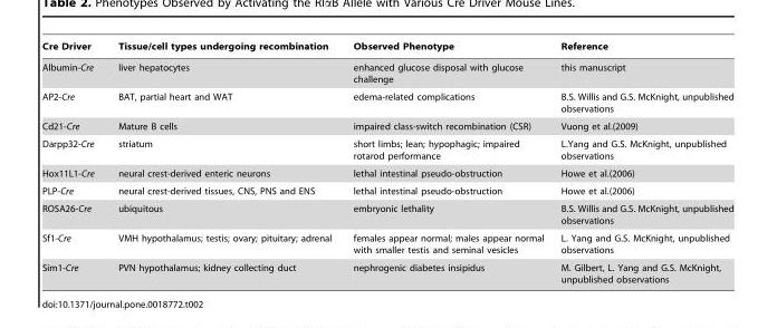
<table><thead><tr><td>Cre Driver</td><td>Tissue/cell types undergoing recombination</td><td>Observed Phenotype</td><td>Reference</td></tr></thead><tbody><tr><td>Albumin-Cre</td><td>liver hepatocytes</td><td>enhanced glucose disposal with glucose challenge</td><td>this manuscript</td></tr><tr><td>AP2-Cre</td><td>BAT, partial heart and WAT</td><td>edema-related complications</td><td>B.S. Willis and G.S. McKnight, unpublished observations</td></tr><tr><td>Cd21-Cre</td><td>Mature B cells</td><td>impaired class-switch recombination (CSR)</td><td>Vuong et al.(2009)</td></tr><tr><td>Darpp32-Cre</td><td>striatum</td><td>short limbs; lean; hypophagic; impaired rotarod performance</td><td>L.Yang and G.S. McKnight, unpublished observations</td></tr><tr><td>Hox11L1-Cre</td><td>neural crest-derived enteric neurons</td><td>lethal intestinal pseudo-obstruction</td><td>Howe et al.(2006)</td></tr><tr><td>PLP-Cre</td><td>neural crest-derived tissues, CNS, PNS and ENS</td><td>lethal intestinal pseudo-obstruction</td><td>Howe et al.(2006)</td></tr><tr><td>ROSA26-Cre</td><td>ubiquitous</td><td>embryonic lethality</td><td>B.S. Willis and G.S. McKnight, unpublished observations</td></tr><tr><td>Sf1-Cre</td><td>VMH hypothalamus; testis; ovary; pituitary; adrenal</td><td>females appear normal; males appear normal with smaller testis and seminal vesicles</td><td>L. Yang and G.S. McKnight, unpublished observations</td></tr><tr><td>Sim1-Cre</td><td>PVN hypothalamus; kidney collecting duct</td><td>nephrogenic diabetes insipidus</td><td>M. Gilbert, L. Yang and G.S. McKnight, unpublished observations</td></tr></tbody></table>